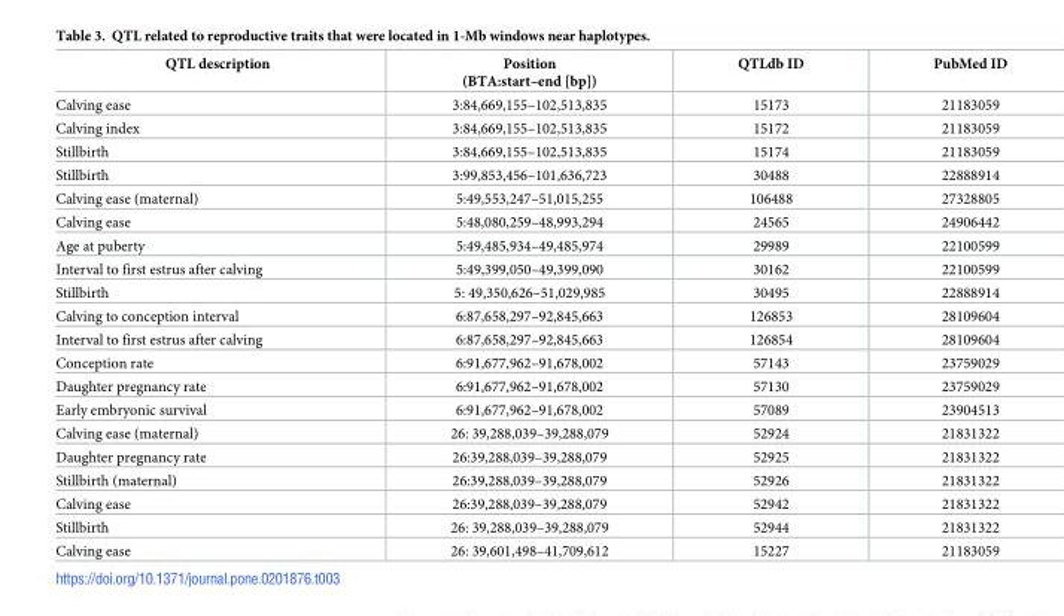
<table><thead><tr><td>QTL description</td><td>Position (BTA:start–end [bp])</td><td>QTLdb ID</td><td>PubMed ID</td></tr></thead><tbody><tr><td>Calving ease</td><td>3:84,669,155–102,513,835</td><td>15173</td><td>21183059</td></tr><tr><td>Calving index</td><td>3:84,669,155–102,513,835</td><td>15172</td><td>21183059</td></tr><tr><td>Stillbirth</td><td>3:84,669,155–102,513,835</td><td>15174</td><td>21183059</td></tr><tr><td>Stillbirth</td><td>3:99,853,456–101,636,723</td><td>30488</td><td>22888914</td></tr><tr><td>Calving ease (maternal)</td><td>5:49,553,247–51,015,255</td><td>106488</td><td>27328805</td></tr><tr><td>Calving ease</td><td>5:48,080,259–48,993,294</td><td>24565</td><td>24906442</td></tr><tr><td>Age at puberty</td><td>5:49,485,934–49,485,974</td><td>29989</td><td>22100599</td></tr><tr><td>Interval to first estrus after calving</td><td>5:49,399,050–49,399,090</td><td>30162</td><td>22100599</td></tr><tr><td>Stillbirth</td><td>5: 49,350,626–51,029,985</td><td>30495</td><td>22888914</td></tr><tr><td>Calving to conception interval</td><td>6:87,658,297–92,845,663</td><td>126853</td><td>28109604</td></tr><tr><td>Interval to first estrus after calving</td><td>6:87,658,297–92,845,663</td><td>126854</td><td>28109604</td></tr><tr><td>Conception rate</td><td>6:91,677,962–91,678,002</td><td>57143</td><td>23759029</td></tr><tr><td>Daughter pregnancy rate</td><td>6:91,677,962–91,678,002</td><td>57130</td><td>23759029</td></tr><tr><td>Early embryonic survival</td><td>6:91,677,962–91,678,002</td><td>57089</td><td>23904513</td></tr><tr><td>Calving ease (maternal)</td><td>26: 39,288,039–39,288,079</td><td>52924</td><td>21831322</td></tr><tr><td>Daughter pregnancy rate</td><td>26:39,288,039–39,288,079</td><td>52925</td><td>21831322</td></tr><tr><td>Stillbirth (maternal)</td><td>26:39,288,039–39,288,079</td><td>52926</td><td>21831322</td></tr><tr><td>Calving ease</td><td>26:39,288,039–39,288,079</td><td>52942</td><td>21831322</td></tr><tr><td>Stillbirth</td><td>26: 39,288,039–39,288,079</td><td>52944</td><td>21831322</td></tr><tr><td>Calving ease</td><td>26: 39,601,498–41,709,612</td><td>15227</td><td>21183059</td></tr></tbody></table>